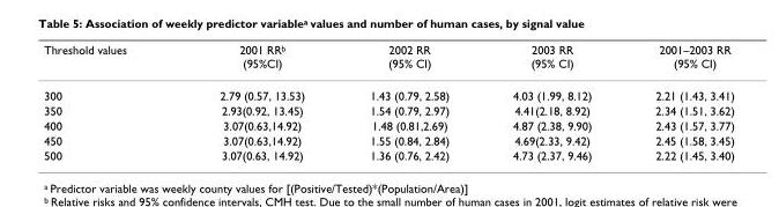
<table><thead><tr><td>Threshold values</td><td>2001 RR<sup>b</sup> (95%CI)</td><td>2002 RR (95% CI)</td><td>2003 RR (95% CI)</td><td>2001–2003 RR (95% CI)</td></tr></thead><tbody><tr><td>300</td><td>2.79 (0.57, 13.53)</td><td>1.43 (0.79, 2.58)</td><td>4.03 (1.99, 8.12)</td><td>2.21 (1.43, 3.41)</td></tr><tr><td>350</td><td>2.93(0.92, 13.45)</td><td>1.54 (0.79, 2.97)</td><td>4.41(2.18, 8.92)</td><td>2.34 (1.51, 3.62)</td></tr><tr><td>400</td><td>3.07(0.63,14.92)</td><td>1.48 (0.81,2.69)</td><td>4.87 (2.38, 9.90)</td><td>2.43 (1.57, 3.77)</td></tr><tr><td>450</td><td>3.07(0.63,14.92)</td><td>1.55 (0.84, 2.84)</td><td>4.69(2.33, 9.42)</td><td>2.45 (1.58, 3.45)</td></tr><tr><td>500</td><td>3.07(0.63, 14.92)</td><td>1.36 (0.76, 2.42)</td><td>4.73 (2.37, 9.46)</td><td>2.22 (1.45, 3.40)</td></tr></tbody></table>